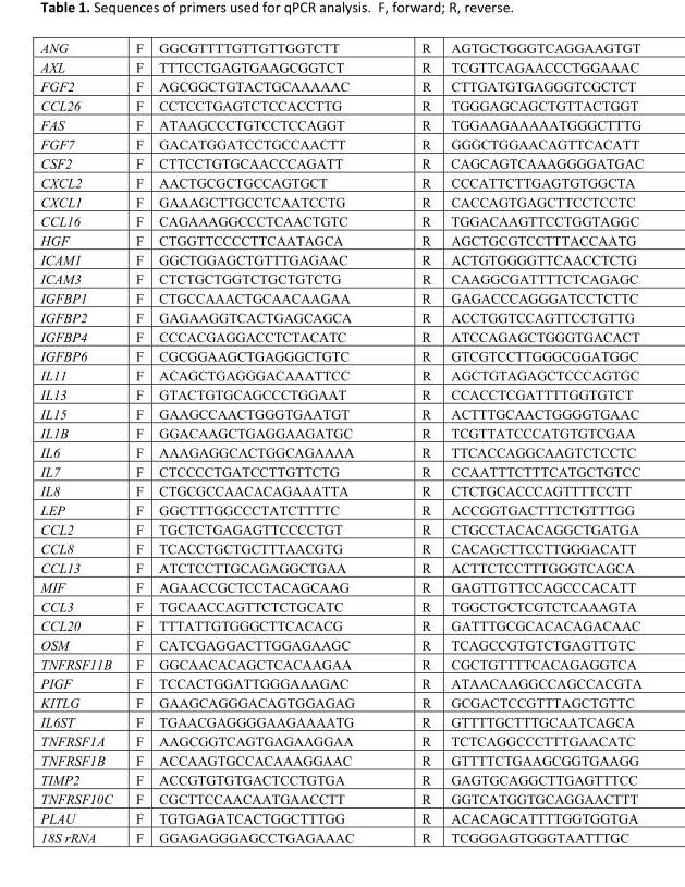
<table><tbody><tr><td>ANG</td><td>F</td><td>GGCGTTTTGTTGTTGGTCTT</td><td>R</td><td>AGTGCTGGGTCAGGAAGTGT</td></tr><tr><td>AXL</td><td>F</td><td>TTTCCTGAGTGAAGCGGTCT</td><td>R</td><td>TCGTTCAGAACCCTGGAAAC</td></tr><tr><td>FGF2</td><td>F</td><td>AGCGGCTGTACTGCAAAAAC</td><td>R</td><td>CTTGATGTGAGGGTCGCTCT</td></tr><tr><td>CCL26</td><td>F</td><td>CCTCCTGAGTCTCCACCTTG</td><td>R</td><td>TGGGAGCAGCTGTTACTGGT</td></tr><tr><td>FAS</td><td>F</td><td>ATAAGCCCTGTCCTCCAGGT</td><td>R</td><td>TGGAAGAAAAATGGGCTTTG</td></tr><tr><td>FGF7</td><td>F</td><td>GACATGGATCCTGCCAACTT</td><td>R</td><td>GGGCTGGAACAGTTCACATT</td></tr><tr><td>CSF2</td><td>F</td><td>CTTCCTGTGCAACCCAGATT</td><td>R</td><td>CAGCAGTCAAAGGGGATGAC</td></tr><tr><td>CXCL2</td><td>F</td><td>AACTGCGCTGCCAGTGCT</td><td>R</td><td>CCCATTCTTGAGTGTGGCTA</td></tr><tr><td>CXCL1</td><td>F</td><td>GAAAGCTTGCCTCAATCCTG</td><td>R</td><td>CACCAGTGAGCTTCCTCCTC</td></tr><tr><td>CCL16</td><td>F</td><td>CAGAAAGGCCCTCAACTGTC</td><td>R</td><td>TGGACAAGTTCCTGGTAGGC</td></tr><tr><td>HGF</td><td>F</td><td>CTGGTTCCCCTTCAATAGCA</td><td>R</td><td>AGCTGCGTCCTTTACCAATG</td></tr><tr><td>ICAM1</td><td>F</td><td>GGCTGGAGCTGTTTGAGAAC</td><td>R</td><td>ACTGTGGGGTTCAACCTCTG</td></tr><tr><td>ICAM3</td><td>F</td><td>CTCTGCTGGTCTGCTGTCTG</td><td>R</td><td>CAAGGCGATTTTCTCAGAGC</td></tr><tr><td>IGFBP1</td><td>F</td><td>CTGCCAAACTGCAACAAGAA</td><td>R</td><td>GAGACCCAGGGATCCTCTTC</td></tr><tr><td>IGFBP2</td><td>F</td><td>GAGAAGGTCACTGAGCAGCA</td><td>R</td><td>ACCTGGTCCAGTTCCTGTTG</td></tr><tr><td>IGFBP4</td><td>F</td><td>CCCACGAGGACCTCTACATC</td><td>R</td><td>ATCCAGAGCTGGGTGACACT</td></tr><tr><td>IGFBP6</td><td>F</td><td>CGCGGAAGCTGAGGGCTGTC</td><td>R</td><td>GTCGTCCTTGGGCGGATGGC</td></tr><tr><td>IL11</td><td>F</td><td>ACAGCTGAGGGACAAATTCC</td><td>R</td><td>AGCTGTAGAGCTCCCAGTGC</td></tr><tr><td>IL13</td><td>F</td><td>GTACTGTGCAGCCCTGGAAT</td><td>R</td><td>CCACCTCGATTTTGGTGTCT</td></tr><tr><td>IL15</td><td>F</td><td>GAAGCCAACTGGGTGAATGT</td><td>R</td><td>ACTTTGCAACTGGGGTGAAC</td></tr><tr><td>IL1B</td><td>F</td><td>GGACAAGCTGAGGAAGATGC</td><td>R</td><td>TCGTTATCCCATGTGTCGAA</td></tr><tr><td>IL6</td><td>F</td><td>AAAGAGGCACTGGCAGAAAA</td><td>R</td><td>TTCACCAGGCAAGTCTCCTC</td></tr><tr><td>IL7</td><td>F</td><td>CTCCCCTGATCCTTGTTCTG</td><td>R</td><td>CCAATTTCTTTCATGCTGTCC</td></tr><tr><td>IL8</td><td>F</td><td>CTGCGCCAACACAGAAATTA</td><td>R</td><td>CTCTGCACCCAGTTTTCCTT</td></tr><tr><td>LEP</td><td>F</td><td>GGCTTTGGCCCTATCTTTTC</td><td>R</td><td>ACCGGTGACTTTCTGTTTGG</td></tr><tr><td>CCL2</td><td>F</td><td>TGCTCTGAGAGTTCCCCTGT</td><td>R</td><td>CTGCCTACACAGGCTGATGA</td></tr><tr><td>CCL8</td><td>F</td><td>TCACCTGCTGCTTTAACGTG</td><td>R</td><td>CACAGCTTCCTTGGGACATT</td></tr><tr><td>CCL13</td><td>F</td><td>ATCTCCTTGCAGAGGCTGAA</td><td>R</td><td>ACTTCTCCTTTGGGTCAGCA</td></tr><tr><td>MIF</td><td>F</td><td>AGAACCGCTCCTACAGCAAG</td><td>R</td><td>GAGTTGTTCCAGCCCACATT</td></tr><tr><td>CCL3</td><td>F</td><td>TGCAACCAGTTCTCTGCATC</td><td>R</td><td>TGGCTGCTCGTCTCAAAGTA</td></tr><tr><td>CCL20</td><td>F</td><td>TTTATTGTGGGCTTCACACG</td><td>R</td><td>GATTTGCGCACACAGACAAC</td></tr><tr><td>OSM</td><td>F</td><td>CATCGAGGACTTGGAGAAGC</td><td>R</td><td>TCAGCCGTGTCTGAGTTGTC</td></tr><tr><td>TNFRSF11B</td><td>F</td><td>GGCAACACAGCTCACAAGAA</td><td>R</td><td>CGCTGTTTTCACAGAGGTCA</td></tr><tr><td>PIGF</td><td>F</td><td>TCCACTGGATTGGGAAAGAC</td><td>R</td><td>ATAACAAGGCCAGCCACGTA</td></tr><tr><td>KITLG</td><td>F</td><td>GAAGCAGGGACAGTGGAGAG</td><td>R</td><td>GCGACTCCGTTTAGCTGTTC</td></tr><tr><td>IL6ST</td><td>F</td><td>TGAACGAGGGGAAGAAAATG</td><td>R</td><td>GTTTTGCTTTGCAATCAGCA</td></tr><tr><td>TNFRSF1A</td><td>F</td><td>AAGCGGTCAGTGAGAAGGAA</td><td>R</td><td>TCTCAGGCCCTTTGAACATC</td></tr><tr><td>TNFRSF1B</td><td>F</td><td>ACCAAGTGCCACAAAGGAAC</td><td>R</td><td>GTTTTCTGAAGCGGTGAAGG</td></tr><tr><td>TIMP2</td><td>F</td><td>ACCGTGTGTGACTCCTGTGA</td><td>R</td><td>GAGTGCAGGCTTGAGTTTCC</td></tr><tr><td>TNFRSF10C</td><td>F</td><td>CGCTTCCAACAATGAACCTT</td><td>R</td><td>GGTCATGGTGCAGGAACTTT</td></tr><tr><td>PLAU</td><td>F</td><td>TGTGAGATCACTGGCTTTGG</td><td>R</td><td>ACACAGCATTTTGGTGGTGA</td></tr><tr><td>18S rRNA</td><td>F</td><td>GGAGAGGGAGCCTGAGAAAC</td><td>R</td><td>TCGGGAGTGGGTAATTTGC</td></tr></tbody></table>